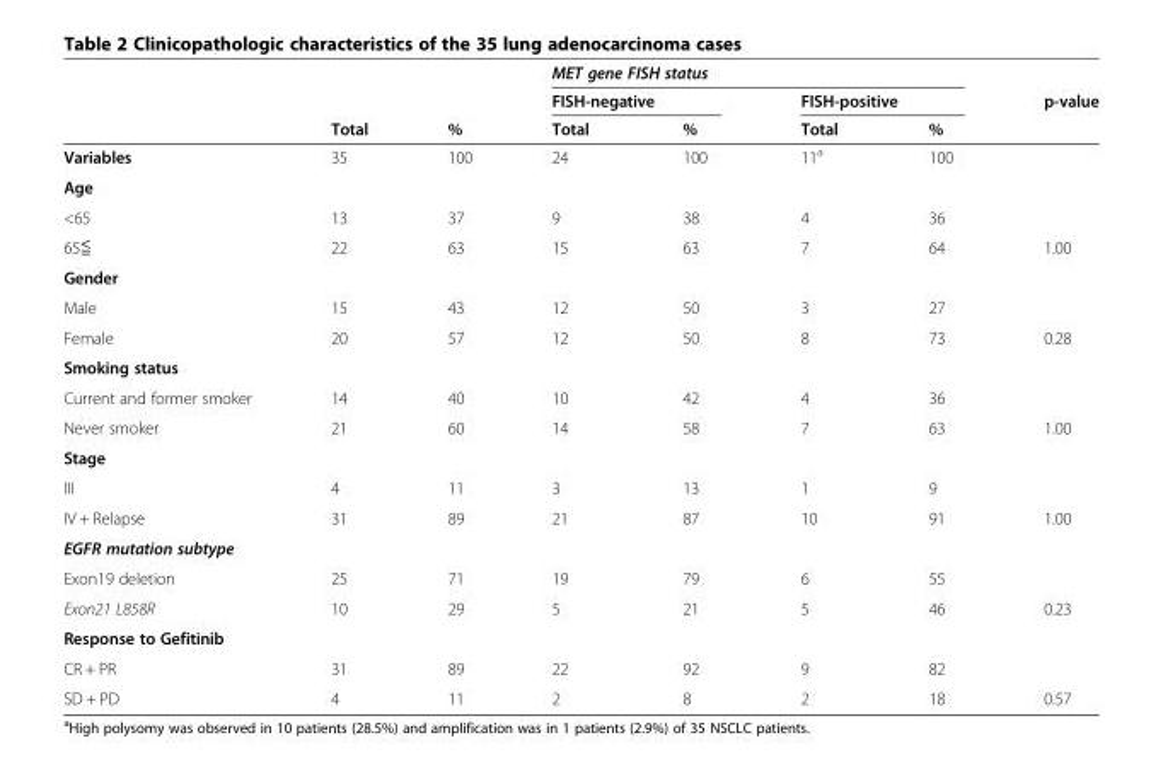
<table><thead><tr><td rowspan="3"></td><td rowspan="3">Total</td><td rowspan="3">%</td><td colspan="4">MET gene FISH status</td><td rowspan="3">p-value</td></tr><tr><td colspan="2">FISH-negative</td><td colspan="2">FISH-positive</td></tr><tr><td>Total</td><td>%</td><td>Total</td><td>%</td></tr></thead><tbody><tr><td>Variables</td><td>35</td><td>100</td><td>24</td><td>100</td><td>11<sup>a</sup></td><td>100</td><td></td></tr><tr><td colspan="8">Age</td></tr><tr><td>&lt;65</td><td>13</td><td>37</td><td>9</td><td>38</td><td>4</td><td>36</td><td></td></tr><tr><td>65≦</td><td>22</td><td>63</td><td>15</td><td>63</td><td>7</td><td>64</td><td>1.00</td></tr><tr><td colspan="8">Gender</td></tr><tr><td>Male</td><td>15</td><td>43</td><td>12</td><td>50</td><td>3</td><td>27</td><td></td></tr><tr><td>Female</td><td>20</td><td>57</td><td>12</td><td>50</td><td>8</td><td>73</td><td>0.28</td></tr><tr><td colspan="8">Smoking status</td></tr><tr><td>Current and former smoker</td><td>14</td><td>40</td><td>10</td><td>42</td><td>4</td><td>36</td><td></td></tr><tr><td>Never smoker</td><td>21</td><td>60</td><td>14</td><td>58</td><td>7</td><td>63</td><td>1.00</td></tr><tr><td colspan="8">Stage</td></tr><tr><td>III</td><td>4</td><td>11</td><td>3</td><td>13</td><td>1</td><td>9</td><td></td></tr><tr><td>IV + Relapse</td><td>31</td><td>89</td><td>21</td><td>87</td><td>10</td><td>91</td><td>1.00</td></tr><tr><td colspan="8">EGFR mutation subtype</td></tr><tr><td>Exon19 deletion</td><td>25</td><td>71</td><td>19</td><td>79</td><td>6</td><td>55</td><td></td></tr><tr><td>Exon21 L858R</td><td>10</td><td>29</td><td>5</td><td>21</td><td>5</td><td>46</td><td>0.23</td></tr><tr><td colspan="8">Response to Gefitinib</td></tr><tr><td>CR + PR</td><td>31</td><td>89</td><td>22</td><td>92</td><td>9</td><td>82</td><td></td></tr><tr><td>SD + PD</td><td>4</td><td>11</td><td>2</td><td>8</td><td>2</td><td>18</td><td>0.57</td></tr></tbody></table>